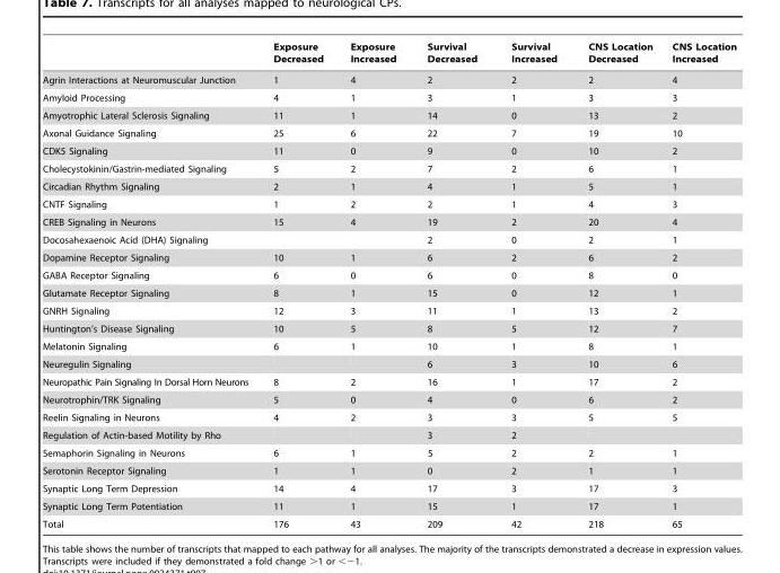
<table><thead><tr><td></td><td>Exposure Decreased</td><td>Exposure Increased</td><td>Survival Decreased</td><td>Survival Increased</td><td>CNS Location Decreased</td><td>CNS Location Increased</td></tr></thead><tbody><tr><td>Agrin Interactions at Neuromuscular Junction</td><td>1</td><td>4</td><td>2</td><td>2</td><td>2</td><td>4</td></tr><tr><td>Amyloid Processing</td><td>4</td><td>1</td><td>3</td><td>1</td><td>3</td><td>3</td></tr><tr><td>Amyotrophic Lateral Sclerosis Signaling</td><td>11</td><td>1</td><td>14</td><td>0</td><td>13</td><td>2</td></tr><tr><td>Axonal Guidance Signaling</td><td>25</td><td>6</td><td>22</td><td>7</td><td>19</td><td>10</td></tr><tr><td>CDK5 Signaling</td><td>11</td><td>0</td><td>9</td><td>0</td><td>10</td><td>2</td></tr><tr><td>Cholecystokinin/Gastrin-mediated Signaling</td><td>5</td><td>2</td><td>7</td><td>2</td><td>6</td><td>1</td></tr><tr><td>Circadian Rhythm Signaling</td><td>2</td><td>1</td><td>4</td><td>1</td><td>5</td><td>1</td></tr><tr><td>CNTF Signaling</td><td>1</td><td>2</td><td>2</td><td>1</td><td>4</td><td>3</td></tr><tr><td>CREB Signaling in Neurons</td><td>15</td><td>4</td><td>19</td><td>2</td><td>20</td><td>4</td></tr><tr><td>Docosahexaenoic Acid (DHA) Signaling</td><td></td><td></td><td>2</td><td>0</td><td>2</td><td>1</td></tr><tr><td>Dopamine Receptor Signaling</td><td>10</td><td>1</td><td>6</td><td>2</td><td>6</td><td>2</td></tr><tr><td>GABA Receptor Signaling</td><td>6</td><td>0</td><td>6</td><td>0</td><td>8</td><td>0</td></tr><tr><td>Glutamate Receptor Signaling</td><td>8</td><td>1</td><td>15</td><td>0</td><td>12</td><td>1</td></tr><tr><td>GNRH Signaling</td><td>12</td><td>3</td><td>11</td><td>1</td><td>13</td><td>2</td></tr><tr><td>Huntington’s Disease Signaling</td><td>10</td><td>5</td><td>8</td><td>5</td><td>12</td><td>7</td></tr><tr><td>Melatonin Signaling</td><td>6</td><td>1</td><td>10</td><td>1</td><td>8</td><td>1</td></tr><tr><td>Neuregulin Signaling</td><td></td><td></td><td>6</td><td>3</td><td>10</td><td>6</td></tr><tr><td>Neuropathic Pain Signaling In Dorsal Horn Neurons</td><td>8</td><td>2</td><td>16</td><td>1</td><td>17</td><td>2</td></tr><tr><td>Neurotrophin/TRK Signaling</td><td>5</td><td>0</td><td>4</td><td>0</td><td>6</td><td>2</td></tr><tr><td>Reelin Signaling in Neurons</td><td>4</td><td>2</td><td>3</td><td>3</td><td>5</td><td>5</td></tr><tr><td>Regulation of Actin-based Motility by Rho</td><td></td><td></td><td>3</td><td>2</td><td></td><td></td></tr><tr><td>Semaphorin Signaling in Neurons</td><td>6</td><td>1</td><td>5</td><td>2</td><td>2</td><td>1</td></tr><tr><td>Serotonin Receptor Signaling</td><td>1</td><td>1</td><td>0</td><td>2</td><td>1</td><td>1</td></tr><tr><td>Synaptic Long Term Depression</td><td>14</td><td>4</td><td>17</td><td>3</td><td>17</td><td>3</td></tr><tr><td>Synaptic Long Term Potentiation</td><td>11</td><td>1</td><td>15</td><td>1</td><td>17</td><td>1</td></tr><tr><td>Total</td><td>176</td><td>43</td><td>209</td><td>42</td><td>218</td><td>65</td></tr></tbody></table>